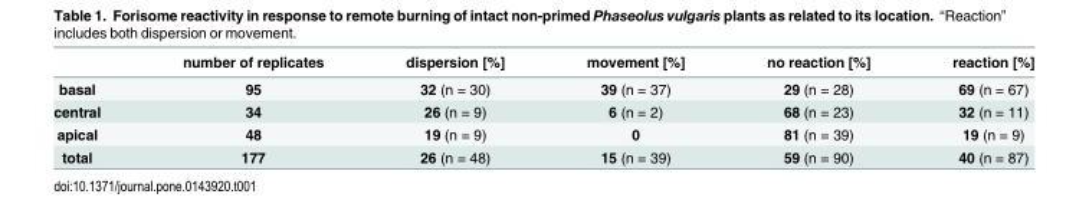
<table><thead><tr><td></td><td>number of replicates</td><td>dispersion [%]</td><td>movement [%]</td><td>no reaction [%]</td><td>reaction [%]</td></tr></thead><tbody><tr><td>basal</td><td>95</td><td>32 (n = 30)</td><td>39 (n = 37)</td><td>29 (n = 28)</td><td>69 (n = 67)</td></tr><tr><td>central</td><td>34</td><td>26 (n = 9)</td><td>6 (n = 2)</td><td>68 (n = 23)</td><td>32 (n = 11)</td></tr><tr><td>apical</td><td>48</td><td>19 (n = 9)</td><td>0</td><td>81 (n = 39)</td><td>19 (n = 9)</td></tr><tr><td>total</td><td>177</td><td>26 (n = 48)</td><td>15 (n = 39)</td><td>59 (n = 90)</td><td>40 (n = 87)</td></tr></tbody></table>